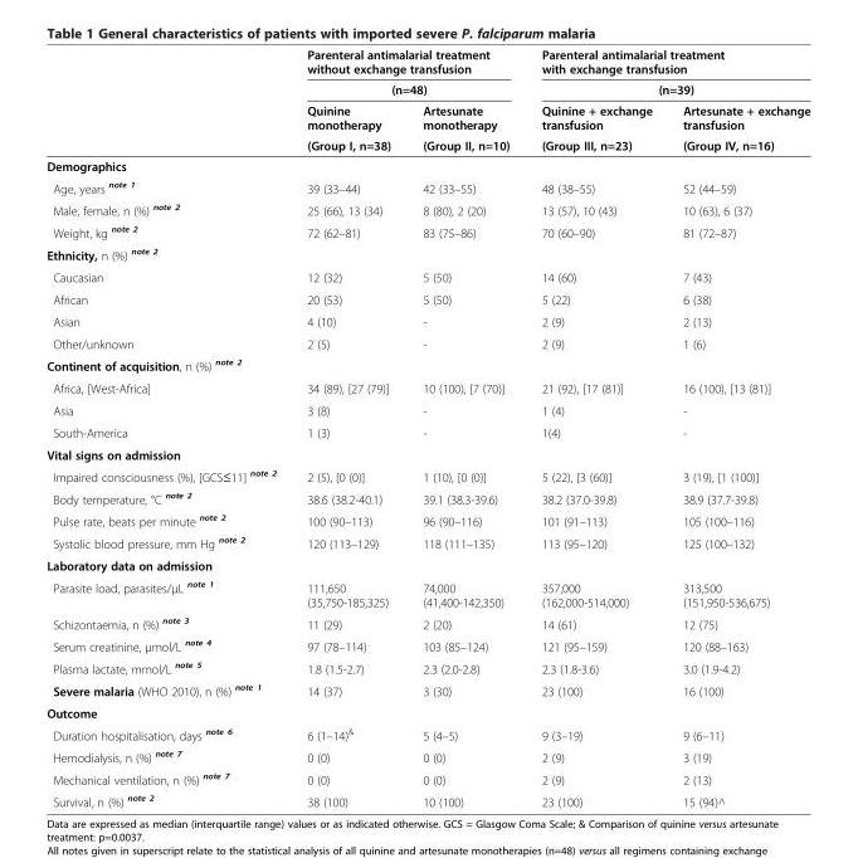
<table><thead><tr><td rowspan="4"></td><td rowspan="2" colspan="2">Parenteral antimalarial treatment without exchange transfusion (n=48)</td><td rowspan="2" colspan="2">Parenteral antimalarial treatment with exchange transfusion (n=39)</td></tr><tr></tr><tr><td rowspan="2">Quinine monotherapy (Group I, n=38)</td><td rowspan="2">Artesunate monotherapy (Group II, n=10)</td><td rowspan="2">Quinine + exchange transfusion (Group III, n=23)</td><td rowspan="2">Artesunate + exchange transfusion (Group IV, n=16)</td></tr><tr></tr></thead><tbody><tr><td colspan="5">Demographics</td></tr><tr><td>Age, years <sup>note 1</sup></td><td>39 (33–44)</td><td>42 (33–55)</td><td>48 (38–55)</td><td>52 (44–59)</td></tr><tr><td>Male, female, n (%) <sup>note 2</sup></td><td>25 (66), 13 (34)</td><td>8 (80), 2 (20)</td><td>13 (57), 10 (43)</td><td>10 (63), 6 (37)</td></tr><tr><td>Weight, kg <sup>note 2</sup></td><td>72 (62–81)</td><td>83 (75–86)</td><td>70 (60–90)</td><td>81 (72–87)</td></tr><tr><td colspan="5">Ethnicity, n (%) <sup>note 2</sup></td></tr><tr><td>Caucasian</td><td>12 (32)</td><td>5 (50)</td><td>14 (60)</td><td>7 (43)</td></tr><tr><td>African</td><td>20 (53)</td><td>5 (50)</td><td>5 (22)</td><td>6 (38)</td></tr><tr><td>Asian</td><td>4 (10)</td><td>-</td><td>2 (9)</td><td>2 (13)</td></tr><tr><td>Other/unknown</td><td>2 (5)</td><td>-</td><td>2 (9)</td><td>1 (6)</td></tr><tr><td colspan="5">Continent of acquisition, n (%) <sup>note 2</sup></td></tr><tr><td>Africa, [West-Africa]</td><td>34 (89), [27 (79)]</td><td>10 (100), [7 (70)]</td><td>21 (92), [17 (81)]</td><td>16 (100), [13 (81)]</td></tr><tr><td>Asia</td><td>3 (8)</td><td>-</td><td>1 (4)</td><td>-</td></tr><tr><td>South-America</td><td>1 (3)</td><td>-</td><td>1(4)</td><td>-</td></tr><tr><td colspan="5">Vital signs on admission</td></tr><tr><td>Impaired consciousness (%), [GCS≤11] <sup>note 2</sup></td><td>2 (5), [0 (0)]</td><td>1 (10), [0 (0)]</td><td>5 (22), [3 (60)]</td><td>3 (19), [1 (100)]</td></tr><tr><td>Body temperature, °C <sup>note 2</sup></td><td>38.6 (38.2-40.1)</td><td>39.1 (38.3-39.6)</td><td>38.2 (37.0-39.8)</td><td>38.9 (37.7-39.8)</td></tr><tr><td>Pulse rate, beats per minute <sup>note 2</sup></td><td>100 (90–113)</td><td>96 (90–116)</td><td>101 (91–113)</td><td>105 (100–116)</td></tr><tr><td>Systolic blood pressure, mm Hg <sup>note 2</sup></td><td>120 (113–129)</td><td>118 (111–135)</td><td>113 (95–120)</td><td>125 (100–132)</td></tr><tr><td colspan="5">Laboratory data on admission</td></tr><tr><td>Parasite load, parasites/μL <sup>note 1</sup></td><td>111,650 (35,750-185,325)</td><td>74,000 (41,400-142,350)</td><td>357,000 (162,000-514,000)</td><td>313,500 (151,950-536,675)</td></tr><tr><td>Schizontaemia, n (%) <sup>note 3</sup></td><td>11 (29)</td><td>2 (20)</td><td>14 (61)</td><td>12 (75)</td></tr><tr><td>Serum creatinine, μmol/L <sup>note 4</sup></td><td>97 (78–114)</td><td>103 (85–124)</td><td>121 (95–159)</td><td>120 (88–163)</td></tr><tr><td>Plasma lactate, mmol/L <sup>note 5</sup></td><td>1.8 (1.5-2.7)</td><td>2.3 (2.0-2.8)</td><td>2.3 (1.8-3.6)</td><td>3.0 (1.9-4.2)</td></tr><tr><td>Severe malaria (WHO 2010), n (%) <sup>note 1</sup></td><td>14 (37)</td><td>3 (30)</td><td>23 (100)</td><td>16 (100)</td></tr><tr><td colspan="5">Outcome</td></tr><tr><td>Duration hospitalisation, days <sup>note 6</sup></td><td>6 (1–14)<sup>&amp;</sup></td><td>5 (4–5)</td><td>9 (3–19)</td><td>9 (6–11)</td></tr><tr><td>Hemodialysis, n (%) <sup>note 7</sup></td><td>0 (0)</td><td>0 (0)</td><td>2 (9)</td><td>3 (19)</td></tr><tr><td>Mechanical ventilation, n (%) <sup>note 7</sup></td><td>0 (0)</td><td>0 (0)</td><td>2 (9)</td><td>2 (13)</td></tr><tr><td>Survival, n (%) <sup>note 2</sup></td><td>38 (100)</td><td>10 (100)</td><td>23 (100)</td><td>15 (94)^</td></tr></tbody></table>